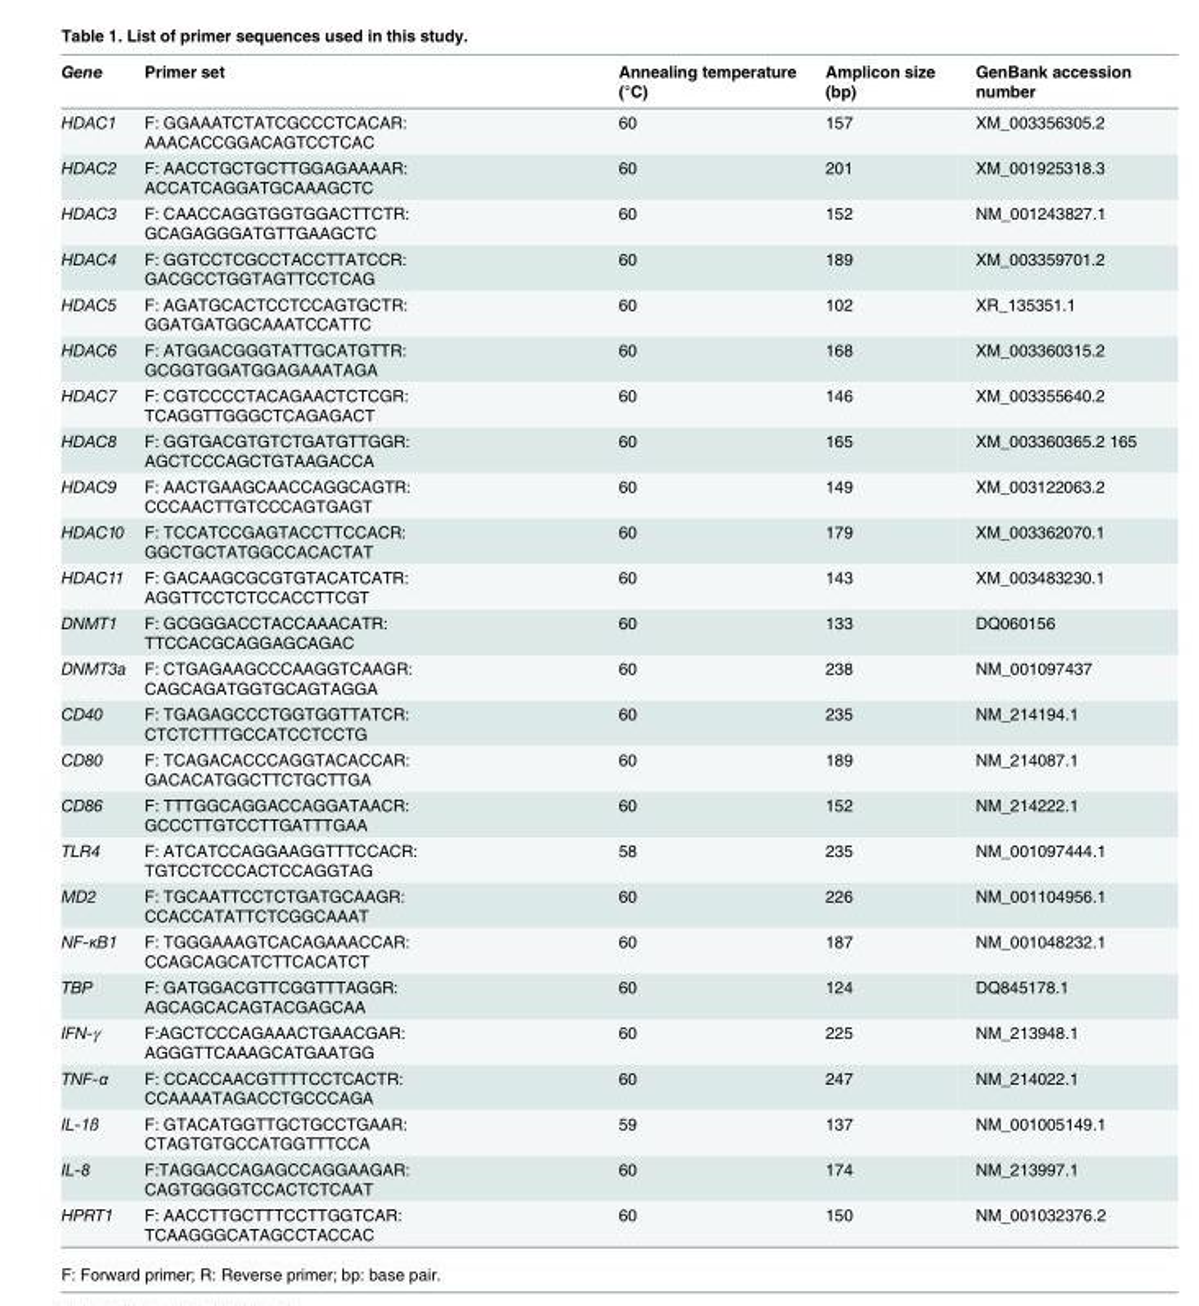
<table><thead><tr><td>Gene</td><td>Primer set</td><td>Annealing temperature (°C)</td><td>Amplicon size (bp)</td><td>GenBank accession number</td></tr></thead><tbody><tr><td>HDAC1</td><td>F: GGAAATCTATCGCCCTCACAR: AAACACCGGACAGTCCTCAC</td><td>60</td><td>157</td><td>XM_003356305.2</td></tr><tr><td>HDAC2</td><td>F: AACCTGCTGCTTGGAGAAAAR: ACCATCAGGATGCAAAGCTC</td><td>60</td><td>201</td><td>XM_001925318.3</td></tr><tr><td>HDAC3</td><td>F: CAACCAGGTGGTGGACTTCTR: GCAGAGGGATGTTGAAGCTC</td><td>60</td><td>152</td><td>NM_001243827.1</td></tr><tr><td>HDAC4</td><td>F: GGTCCTCGCCTACCTTATCCR: GACGCCTGGTAGTTCCTCAG</td><td>60</td><td>189</td><td>XM_003359701.2</td></tr><tr><td>HDAC5</td><td>F: AGATGCACTCCTCCAGTGCTR: GGATGATGGCAAATCCATTC</td><td>60</td><td>102</td><td>XR_135351.1</td></tr><tr><td>HDAC6</td><td>F: ATGGACGGGTATTGCATGTTR: GCGGTGGATGGAGAAATAGA</td><td>60</td><td>168</td><td>XM_003360315.2</td></tr><tr><td>HDAC7</td><td>F: CGTCCCCTACAGAACTCTCGR: TCAGGTTGGGCTCAGAGACT</td><td>60</td><td>146</td><td>XM_003355640.2</td></tr><tr><td>HDAC8</td><td>F: GGTGACGTGTCTGATGTTGGR: AGCTCCCAGCTGTAAGACCA</td><td>60</td><td>165</td><td>XM_003360365.2 165</td></tr><tr><td>HDAC9</td><td>F: AACTGAAGCAACCAGGCAGTR: CCCAACTTGTCCCAGTGAGT</td><td>60</td><td>149</td><td>XM_003122063.2</td></tr><tr><td>HDAC10</td><td>F: TCCATCCGAGTACCTTCCACR: GGCTGCTATGGCCACACTAT</td><td>60</td><td>179</td><td>XM_003362070.1</td></tr><tr><td>HDAC11</td><td>F: GACAAGCGCGTGTACATCATR: AGGTTCCTCTCCACCTTCGT</td><td>60</td><td>143</td><td>XM_003483230.1</td></tr><tr><td>DNMT1</td><td>F: GCGGGACCTACCAAACATR: TTCCACGCAGGAGCAGAC</td><td>60</td><td>133</td><td>DQ060156</td></tr><tr><td>DNMT3a</td><td>F: CTGAGAAGCCCAAGGTCAAGR: CAGCAGATGGTGCAGTAGGA</td><td>60</td><td>238</td><td>NM_001097437</td></tr><tr><td>CD40</td><td>F: TGAGAGCCCTGGTGGTTATCR: CTCTCTTTGCCATCCTCCTG</td><td>60</td><td>235</td><td>NM_214194.1</td></tr><tr><td>CD80</td><td>F: TCAGACACCCAGGTACACCAR: GACACATGGCTTCTGCTTGA</td><td>60</td><td>189</td><td>NM_214087.1</td></tr><tr><td>CD86</td><td>F: TTTGGCAGGACCAGGATAACR: GCCCTTGTCCTTGATTTGAA</td><td>60</td><td>152</td><td>NM_214222.1</td></tr><tr><td>TLR4</td><td>F: ATCATCCAGGAAGGTTTCCACR: TGTCCTCCCACTCCAGGTAG</td><td>58</td><td>235</td><td>NM_001097444.1</td></tr><tr><td>MD2</td><td>F: TGCAATTCCTCTGATGCAAGR: CCACCATATTCTCGGCAAAT</td><td>60</td><td>226</td><td>NM_001104956.1</td></tr><tr><td>NF-κB1</td><td>F: TGGGAAAGTCACAGAAACCAR: CCAGCAGCATCTTCACATCT</td><td>60</td><td>187</td><td>NM_001048232.1</td></tr><tr><td>TBP</td><td>F: GATGGACGTTCGGTTTAGGR: AGCAGCACAGTACGAGCAA</td><td>60</td><td>124</td><td>DQ845178.1</td></tr><tr><td>IFN-γ</td><td>F:AGCTCCCAGAAACTGAACGAR: AGGGTTCAAAGCATGAATGG</td><td>60</td><td>225</td><td>NM_213948.1</td></tr><tr><td>TNF-α</td><td>F: CCACCAACGTTTTCCTCACTR: CCAAAATAGACCTGCCCAGA</td><td>60</td><td>247</td><td>NM_214022.1</td></tr><tr><td>IL-1ß</td><td>F: GTACATGGTTGCTGCCTGAAR: CTAGTGTGCCATGGTTTCCA</td><td>59</td><td>137</td><td>NM_001005149.1</td></tr><tr><td>IL-8</td><td>F:TAGGACCAGAGCCAGGAAGAR: CAGTGGGGTCCACTCTCAAT</td><td>60</td><td>174</td><td>NM_213997.1</td></tr><tr><td>HPRT1</td><td>F: AACCTTGCTTTCCTTGGTCAR: TCAAGGGCATAGCCTACCAC</td><td>60</td><td>150</td><td>NM_001032376.2</td></tr></tbody></table>